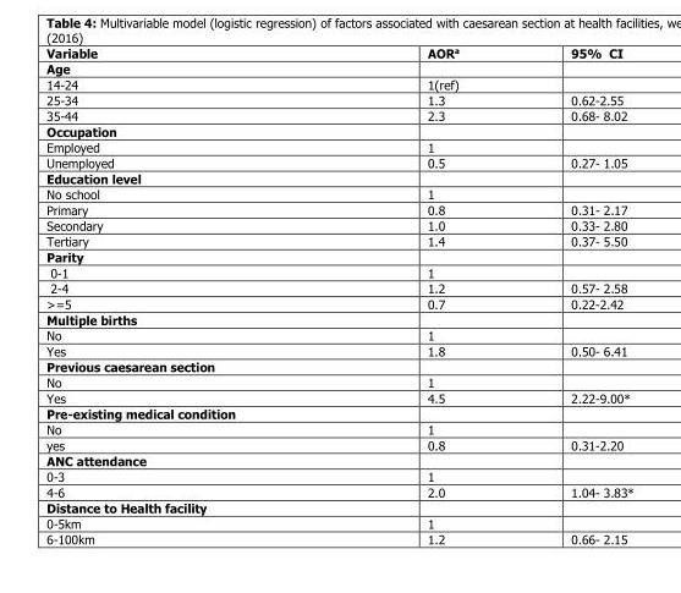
<table><thead><tr><td>Variable</td><td>AOR<sup>a</sup></td><td>95% CI</td></tr></thead><tbody><tr><td colspan="3">Age</td></tr><tr><td>14-24</td><td>1(ref)</td><td></td></tr><tr><td>25-34</td><td>1.3</td><td>0.62-2.55</td></tr><tr><td>35-44</td><td>2.3</td><td>0.68- 8.02</td></tr><tr><td colspan="3">Occupation</td></tr><tr><td>Employed</td><td>1</td><td></td></tr><tr><td>Unemployed</td><td>0.5</td><td>0.27- 1.05</td></tr><tr><td colspan="3">Education level</td></tr><tr><td>No school</td><td>1</td><td></td></tr><tr><td>Primary</td><td>0.8</td><td>0.31- 2.17</td></tr><tr><td>Secondary</td><td>1.0</td><td>0.33- 2.80</td></tr><tr><td>Tertiary</td><td>1.4</td><td>0.37- 5.50</td></tr><tr><td colspan="3">Parity</td></tr><tr><td>0-1</td><td>1</td><td></td></tr><tr><td>2-4</td><td>1.2</td><td>0.57- 2.58</td></tr><tr><td>&gt;=5</td><td>0.7</td><td>0.22-2.42</td></tr><tr><td colspan="3">Multiple births</td></tr><tr><td>No</td><td>1</td><td></td></tr><tr><td>Yes</td><td>1.8</td><td>0.50- 6.41</td></tr><tr><td colspan="3">Previous caesarean section</td></tr><tr><td>No</td><td>1</td><td></td></tr><tr><td>Yes</td><td>4.5</td><td>2.22-9.00*</td></tr><tr><td colspan="3">Pre-existing medical condition</td></tr><tr><td>No</td><td>1</td><td></td></tr><tr><td>yes</td><td>0.8</td><td>0.31-2.20</td></tr><tr><td colspan="3">ANC attendance</td></tr><tr><td>0-3</td><td>1</td><td></td></tr><tr><td>4-6</td><td>2.0</td><td>1.04- 3.83*</td></tr><tr><td colspan="3">Distance to Health facility</td></tr><tr><td>0-5km</td><td>1</td><td></td></tr><tr><td>6-100km</td><td>1.2</td><td>0.66- 2.15</td></tr></tbody></table>